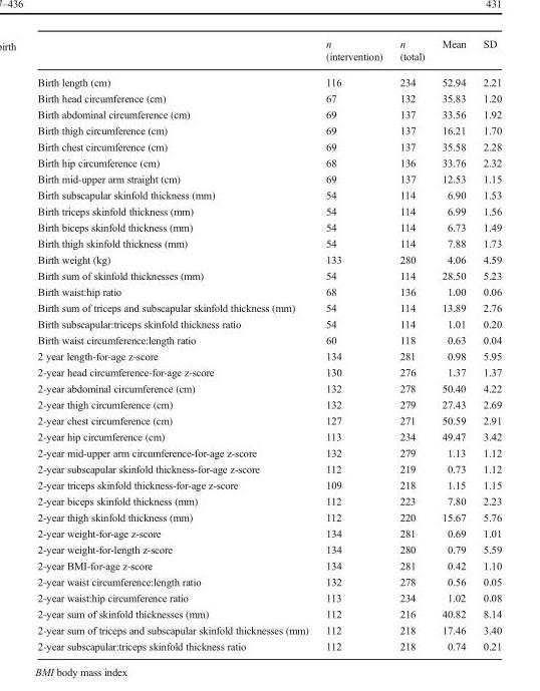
<table><thead><tr><td></td><td>n (intervention)</td><td>n (total)</td><td>Mean</td><td>SD</td></tr></thead><tbody><tr><td>Birth length (cm)</td><td>116</td><td>234</td><td>52.94</td><td>2.21</td></tr><tr><td>Birth head circumference (cm)</td><td>67</td><td>132</td><td>35.83</td><td>1.20</td></tr><tr><td>Birth abdominal circumference (cm)</td><td>69</td><td>137</td><td>33.56</td><td>1.92</td></tr><tr><td>Birth thigh circumference (cm)</td><td>69</td><td>137</td><td>16.21</td><td>1.70</td></tr><tr><td>Birth chest circumference (cm)</td><td>69</td><td>137</td><td>35.58</td><td>2.28</td></tr><tr><td>Birth hip circumference (cm)</td><td>68</td><td>136</td><td>33.76</td><td>2.32</td></tr><tr><td>Birth mid-upper arm straight (cm)</td><td>69</td><td>137</td><td>12.53</td><td>1.15</td></tr><tr><td>Birth subscapular skinfold thickness (mm)</td><td>54</td><td>114</td><td>6.90</td><td>1.53</td></tr><tr><td>Birth triceps skinfold thickness (mm)</td><td>54</td><td>114</td><td>6.99</td><td>1.56</td></tr><tr><td>Birth biceps skinfold thickness (mm)</td><td>54</td><td>114</td><td>6.73</td><td>1.49</td></tr><tr><td>Birth thigh skinfold thickness (mm)</td><td>54</td><td>114</td><td>7.88</td><td>1.73</td></tr><tr><td>Birth weight (kg)</td><td>133</td><td>280</td><td>4.06</td><td>4.59</td></tr><tr><td>Birth sum of skinfold thicknesses (mm)</td><td>54</td><td>114</td><td>28.50</td><td>5.23</td></tr><tr><td>Birth waist:hip ratio</td><td>68</td><td>136</td><td>1.00</td><td>0.06</td></tr><tr><td>Birth sum of triceps and subscapular skinfold thickness (mm)</td><td>54</td><td>114</td><td>13.89</td><td>2.76</td></tr><tr><td>Birth subscapular:triceps skinfold thickness ratio</td><td>54</td><td>114</td><td>1.01</td><td>0.20</td></tr><tr><td>Birth waist circumference:length ratio</td><td>60</td><td>118</td><td>0.63</td><td>0.04</td></tr><tr><td>2 year length-for-age z-score</td><td>134</td><td>281</td><td>0.98</td><td>5.95</td></tr><tr><td>2-year head circumference-for-age z-score</td><td>130</td><td>276</td><td>1.37</td><td>1.37</td></tr><tr><td>2-year abdominal circumference (cm)</td><td>132</td><td>278</td><td>50.40</td><td>4.22</td></tr><tr><td>2-year thigh circumference (cm)</td><td>132</td><td>279</td><td>27.43</td><td>2.69</td></tr><tr><td>2-year chest circumference (cm)</td><td>127</td><td>271</td><td>50.59</td><td>2.91</td></tr><tr><td>2-year hip circumference (cm)</td><td>113</td><td>234</td><td>49.47</td><td>3.42</td></tr><tr><td>2-year mid-upper arm circumference-for-age z-score</td><td>132</td><td>279</td><td>1.13</td><td>1.12</td></tr><tr><td>2-year subscapular skinfold thickness-for-age z-score</td><td>112</td><td>219</td><td>0.73</td><td>1.12</td></tr><tr><td>2-year triceps skinfold thickness-for-age z-score</td><td>109</td><td>218</td><td>1.15</td><td>1.15</td></tr><tr><td>2-year biceps skinfold thickness (mm)</td><td>112</td><td>223</td><td>7.80</td><td>2.23</td></tr><tr><td>2-year thigh skinfold thickness (mm)</td><td>112</td><td>220</td><td>15.67</td><td>5.76</td></tr><tr><td>2-year weight-for-age z-score</td><td>134</td><td>281</td><td>0.69</td><td>1.01</td></tr><tr><td>2-year weight-for-length z-score</td><td>134</td><td>280</td><td>0.79</td><td>5.59</td></tr><tr><td>2-year BMI-for-age z-score</td><td>134</td><td>281</td><td>0.42</td><td>1.10</td></tr><tr><td>2-year waist circumference:length ratio</td><td>132</td><td>278</td><td>0.56</td><td>0.05</td></tr><tr><td>2-year waist:hip circumference ratio</td><td>113</td><td>234</td><td>1.02</td><td>0.08</td></tr><tr><td>2-year sum of skinfold thicknesses (mm)</td><td>112</td><td>216</td><td>40.82</td><td>8.14</td></tr><tr><td>2-year sum of triceps and subscapular skinfold thicknesses (mm)</td><td>112</td><td>218</td><td>17.46</td><td>3.40</td></tr><tr><td>2-year subscapular:triceps skinfold thickness ratio</td><td>112</td><td>218</td><td>0.74</td><td>0.21</td></tr></tbody></table>